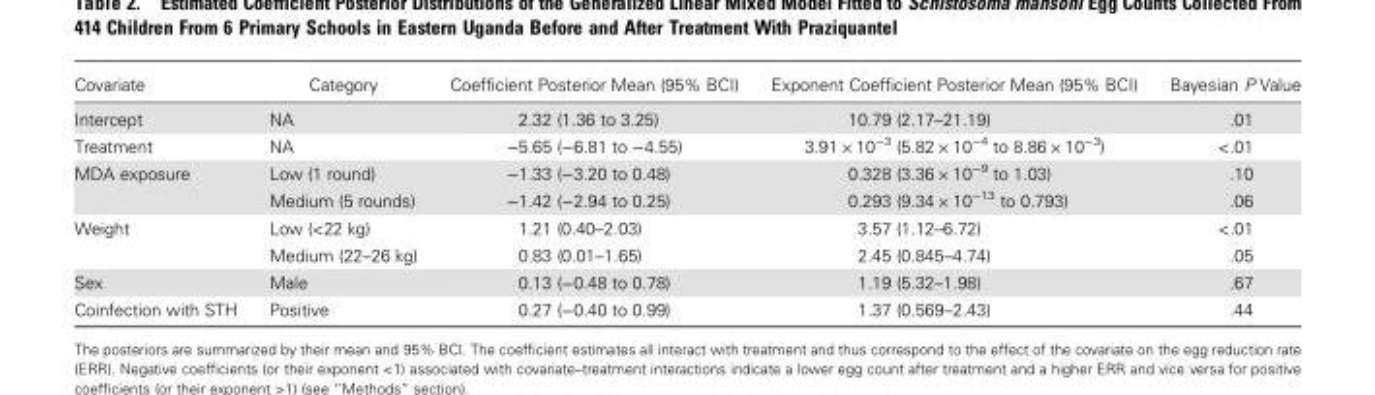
<table><thead><tr><td>Covariate</td><td>Category</td><td>Coefficient Posterior Mean (95% BCI)</td><td>Exponent Coefficient Posterior Mean (95% BCI)</td><td>Bayesian P Value</td></tr></thead><tbody><tr><td>Intercept</td><td>NA</td><td>2.32 (1.36 to 3.25)</td><td>10.79 (2.17–21.19)</td><td>.01</td></tr><tr><td>Treatment</td><td>NA</td><td>−5.65 (−6.81 to −4.55)</td><td>3.91 × 10<sup>−3</sup> (5.82 × 10<sup>−4</sup> to 8.86 × 10<sup>−3</sup>)</td><td>&lt;.01</td></tr><tr><td rowspan="2">MDA exposure</td><td>Low (1 round)</td><td>−1.33 (−3.20 to 0.48)</td><td>0.328 (3.36 × 10<sup>−9</sup> to 1.03)</td><td>.10</td></tr><tr><td>Medium (5 rounds)</td><td>−1.42 (−2.94 to 0.25)</td><td>0.293 (9.34 × 10<sup>−13</sup> to 0.793)</td><td>.06</td></tr><tr><td rowspan="2">Weight</td><td>Low (&lt;22 kg)</td><td>1.21 (0.40–2.03)</td><td>3.57 (1.12–6.72)</td><td>&lt;.01</td></tr><tr><td>Medium (22–26 kg)</td><td>0.83 (0.01–1.65)</td><td>2.45 (0.845–4.74)</td><td>.05</td></tr><tr><td>Sex</td><td>Male</td><td>0.13 (−0.48 to 0.78)</td><td>1.19 (5.32–1.98)</td><td>.67</td></tr><tr><td>Coinfection with STH</td><td>Positive</td><td>0.27 (−0.40 to 0.99)</td><td>1.37 (0.569–2.43)</td><td>.44</td></tr></tbody></table>